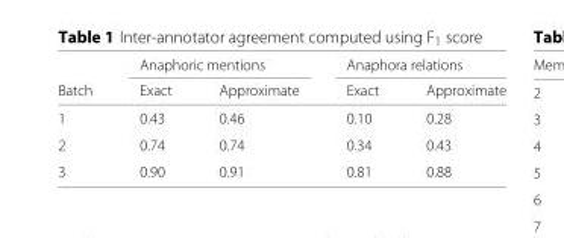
<table><thead><tr><td rowspan="2">Batch</td><td colspan="2">Anaphoric mentions</td><td colspan="2">Anaphora relations</td></tr><tr><td>Exact</td><td>Approximate</td><td>Exact</td><td>Approximate</td></tr></thead><tbody><tr><td>1</td><td>0.43</td><td>0.46</td><td>0.10</td><td>0.28</td></tr><tr><td>2</td><td>0.74</td><td>0.74</td><td>0.34</td><td>0.43</td></tr><tr><td>3</td><td>0.90</td><td>0.91</td><td>0.81</td><td>0.88</td></tr></tbody></table>